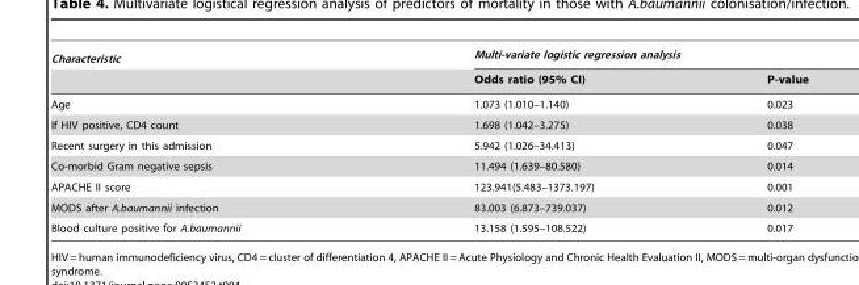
<table><thead><tr><td rowspan="2">Characteristic</td><td colspan="2">Multi-variate logistic regression analysis</td></tr><tr><td>Odds ratio (95% CI)</td><td>P-value</td></tr></thead><tbody><tr><td>Age</td><td>1.073 (1.010–1.140)</td><td>0.023</td></tr><tr><td>If HIV positive, CD4 count</td><td>1.698 (1.042–3.275)</td><td>0.038</td></tr><tr><td>Recent surgery in this admission</td><td>5.942 (1.026–34.413)</td><td>0.047</td></tr><tr><td>Co-morbid Gram negative sepsis</td><td>11.494 (1.639–80.580)</td><td>0.014</td></tr><tr><td>APACHE II score</td><td>123.941(5.483–1373.197)</td><td>0.001</td></tr><tr><td>MODS after A.baumannii infection</td><td>83.003 (6.873–739.037)</td><td>0.012</td></tr><tr><td>Blood culture positive for A.baumannii</td><td>13.158 (1.595–108.522)</td><td>0.017</td></tr></tbody></table>